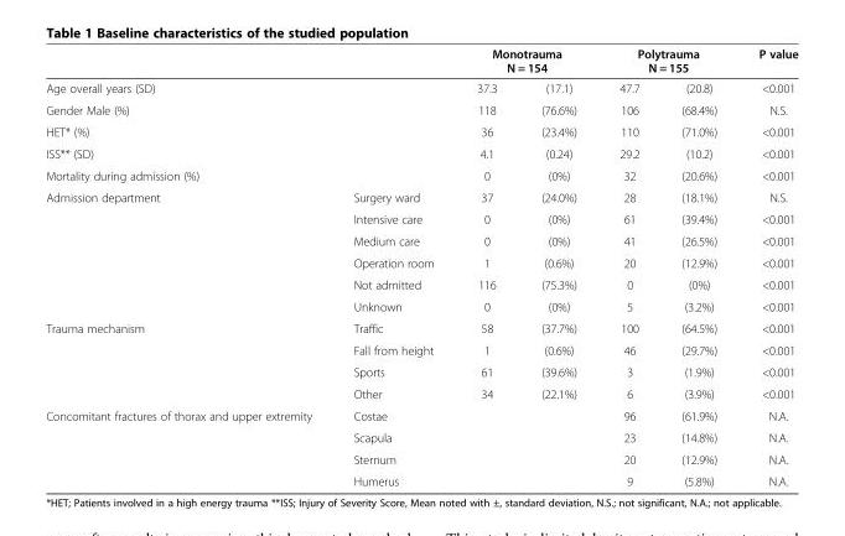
<table><thead><tr><td></td><td></td><td colspan="2">Monotrauma N = 154</td><td colspan="2">Polytrauma N = 155</td><td rowspan="2">P value &lt;0.001</td></tr><tr><td colspan="2">Age overall years (SD)</td><td>37.3</td><td>(17.1)</td><td>47.7</td><td>(20.8)</td></tr></thead><tbody><tr><td colspan="2">Gender Male (%)</td><td>118</td><td>(76.6%)</td><td>106</td><td>(68.4%)</td><td>N.S.</td></tr><tr><td colspan="2">HET* (%)</td><td>36</td><td>(23.4%)</td><td>110</td><td>(71.0%)</td><td>&lt;0.001</td></tr><tr><td colspan="2">ISS** (SD)</td><td>4.1</td><td>(0.24)</td><td>29.2</td><td>(10.2)</td><td>&lt;0.001</td></tr><tr><td colspan="2">Mortality during admission (%)</td><td>0</td><td>(0%)</td><td>32</td><td>(20.6%)</td><td>&lt;0.001</td></tr><tr><td rowspan="6">Admission department</td><td>Surgery ward</td><td>37</td><td>(24.0%)</td><td>28</td><td>(18.1%)</td><td>N.S.</td></tr><tr><td>Intensive care</td><td>0</td><td>(0%)</td><td>61</td><td>(39.4%)</td><td>&lt;0.001</td></tr><tr><td>Medium care</td><td>0</td><td>(0%)</td><td>41</td><td>(26.5%)</td><td>&lt;0.001</td></tr><tr><td>Operation room</td><td>1</td><td>(0.6%)</td><td>20</td><td>(12.9%)</td><td>&lt;0.001</td></tr><tr><td>Not admitted</td><td>116</td><td>(75.3%)</td><td>0</td><td>(0%)</td><td>&lt;0.001</td></tr><tr><td>Unknown</td><td>0</td><td>(0%)</td><td>5</td><td>(3.2%)</td><td>&lt;0.001</td></tr><tr><td rowspan="4">Trauma mechanism</td><td>Traffic</td><td>58</td><td>(37.7%)</td><td>100</td><td>(64.5%)</td><td>&lt;0.001</td></tr><tr><td>Fall from height</td><td>1</td><td>(0.6%)</td><td>46</td><td>(29.7%)</td><td>&lt;0.001</td></tr><tr><td>Sports</td><td>61</td><td>(39.6%)</td><td>3</td><td>(1.9%)</td><td>&lt;0.001</td></tr><tr><td>Other</td><td>34</td><td>(22.1%)</td><td>6</td><td>(3.9%)</td><td>&lt;0.001</td></tr><tr><td rowspan="4">Concomitant fractures of thorax and upper extremity</td><td>Costae</td><td></td><td></td><td>96</td><td>(61.9%)</td><td>N.A.</td></tr><tr><td>Scapula</td><td></td><td></td><td>23</td><td>(14.8%)</td><td>N.A.</td></tr><tr><td>Sternum</td><td></td><td></td><td>20</td><td>(12.9%)</td><td>N.A.</td></tr><tr><td>Humerus</td><td></td><td></td><td>9</td><td>(5.8%)</td><td>N.A.</td></tr></tbody></table>